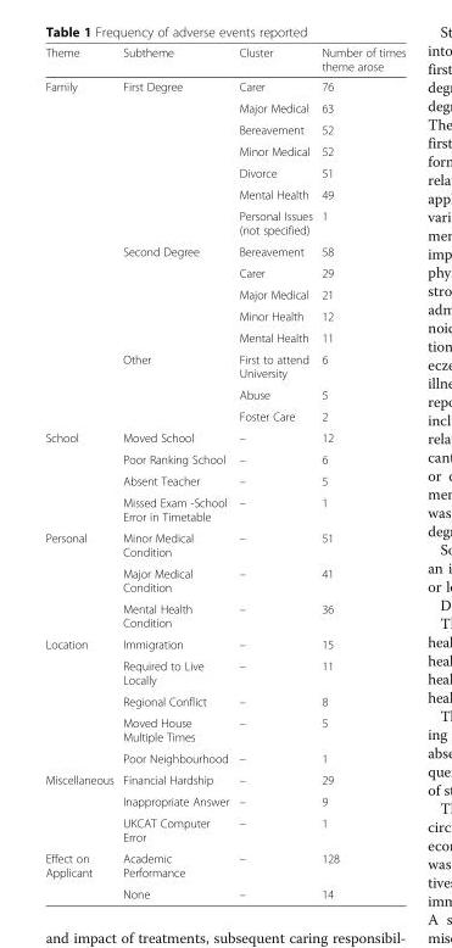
<table><thead><tr><td>Theme</td><td>Subtheme</td><td>Cluster</td><td>Number of times theme arose</td></tr></thead><tbody><tr><td rowspan="15">Family</td><td rowspan="7">First Degree</td><td>Carer</td><td>76</td></tr><tr><td>Major Medical</td><td>63</td></tr><tr><td>Bereavement</td><td>52</td></tr><tr><td>Minor Medical</td><td>52</td></tr><tr><td>Divorce</td><td>51</td></tr><tr><td>Mental Health</td><td>49</td></tr><tr><td>Personal Issues (not specified)</td><td>1</td></tr><tr><td rowspan="5">Second Degree</td><td>Bereavement</td><td>58</td></tr><tr><td>Carer</td><td>29</td></tr><tr><td>Major Medical</td><td>21</td></tr><tr><td>Minor Health</td><td>12</td></tr><tr><td>Mental Health</td><td>11</td></tr><tr><td rowspan="3">Other</td><td>First to attend University</td><td>6</td></tr><tr><td>Abuse</td><td>5</td></tr><tr><td>Foster Care</td><td>2</td></tr><tr><td rowspan="4">School</td><td>Moved School</td><td>–</td><td>12</td></tr><tr><td>Poor Ranking School</td><td>–</td><td>6</td></tr><tr><td>Absent Teacher</td><td>–</td><td>5</td></tr><tr><td>Missed Exam -School Error in Timetable</td><td>–</td><td>1</td></tr><tr><td rowspan="3">Personal</td><td>Minor Medical Condition</td><td>–</td><td>51</td></tr><tr><td>Major Medical Condition</td><td>–</td><td>41</td></tr><tr><td>Mental Health Condition</td><td>–</td><td>36</td></tr><tr><td rowspan="5">Location</td><td>Immigration</td><td>–</td><td>15</td></tr><tr><td>Required to Live Locally</td><td>–</td><td>11</td></tr><tr><td>Regional Conflict</td><td>–</td><td>8</td></tr><tr><td>Moved House Multiple Times</td><td>–</td><td>5</td></tr><tr><td>Poor Neighbourhood</td><td>–</td><td>1</td></tr><tr><td rowspan="3">Miscellaneous</td><td>Financial Hardship</td><td>–</td><td>29</td></tr><tr><td>Inappropriate Answer</td><td>–</td><td>9</td></tr><tr><td>UKCAT Computer Error</td><td>–</td><td>1</td></tr><tr><td rowspan="2">Effect on Applicant</td><td>Academic Performance</td><td>–</td><td>128</td></tr><tr><td>None</td><td>–</td><td>14</td></tr></tbody></table>